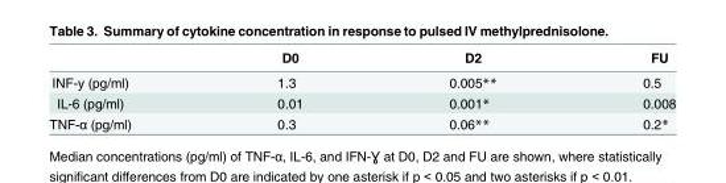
<table><thead><tr><td></td><td>D0</td><td>D2</td><td>FU</td></tr></thead><tbody><tr><td>INF-y (pg/ml)</td><td>1.3</td><td>0.005**</td><td>0.5</td></tr><tr><td>IL-6 (pg/ml)</td><td>0.01</td><td>0.001*</td><td>0.008</td></tr><tr><td>TNF-α (pg/ml)</td><td>0.3</td><td>0.06**</td><td>0.2*</td></tr></tbody></table>